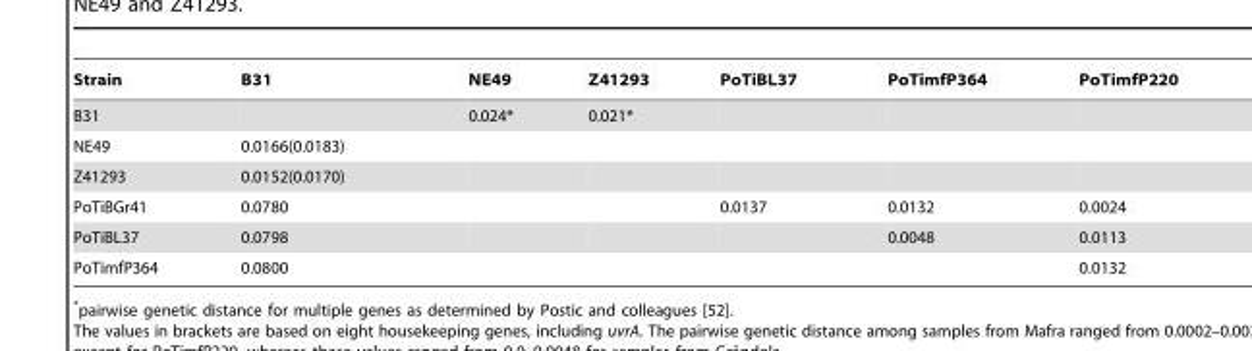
<table><thead><tr><td>Strain</td><td>B31</td><td>NE49</td><td>Z41293</td><td>PoTiBL37</td><td>PoTimfP364</td><td>PoTimfP220</td></tr></thead><tbody><tr><td>B31</td><td></td><td>0.024*</td><td>0.021*</td><td></td><td></td><td></td></tr><tr><td>NE49</td><td>0.0166(0.0183)</td><td></td><td></td><td></td><td></td><td></td></tr><tr><td>Z41293</td><td>0.0152(0.0170)</td><td></td><td></td><td></td><td></td><td></td></tr><tr><td>PoTiBGr41</td><td>0.0780</td><td></td><td></td><td>0.0137</td><td>0.0132</td><td>0.0024</td></tr><tr><td>PoTiBL37</td><td>0.0798</td><td></td><td></td><td></td><td>0.0048</td><td>0.0113</td></tr><tr><td>PoTimfP364</td><td>0.0800</td><td></td><td></td><td></td><td></td><td>0.0132</td></tr></tbody></table>